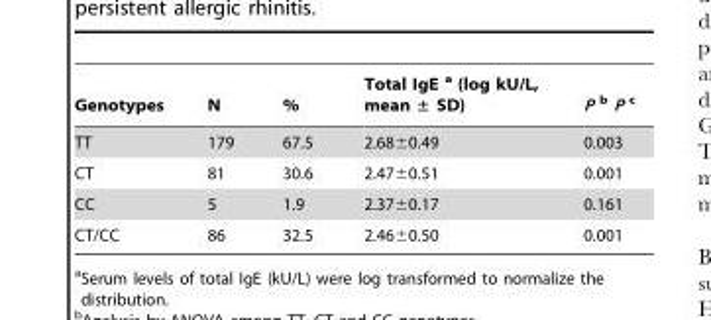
<table><thead><tr><td>Genotypes</td><td>N</td><td>%</td><td>Total IgE a (log kU/L, mean ± SD)</td><td>P b P c</td></tr></thead><tbody><tr><td>TT</td><td>179</td><td>67.5</td><td>2.68±0.49</td><td>0.003</td></tr><tr><td>CT</td><td>81</td><td>30.6</td><td>2.47±0.51</td><td>0.001</td></tr><tr><td>CC</td><td>5</td><td>1.9</td><td>2.37±0.17</td><td>0.161</td></tr><tr><td>CT/CC</td><td>86</td><td>32.5</td><td>2.46±0.50</td><td>0.001</td></tr></tbody></table>